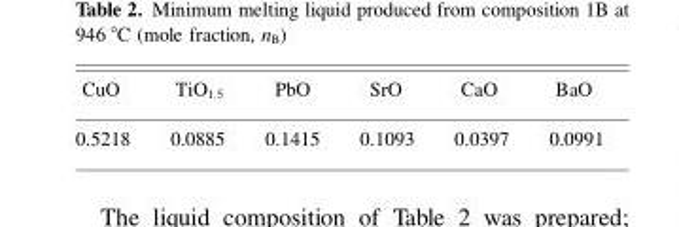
<table><thead><tr><td>CuO</td><td>TiO<sub>1.5</sub></td><td>PbO</td><td>SrO</td><td>CaO</td><td>BaO</td></tr></thead><tbody><tr><td>0.5218</td><td>0.0885</td><td>0.1415</td><td>0.1093</td><td>0.0397</td><td>0.0991</td></tr></tbody></table>